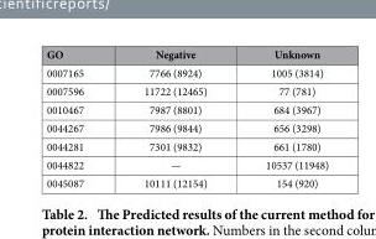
<table><thead><tr><td>GO</td><td>Negative</td><td>Unknown</td></tr></thead><tbody><tr><td>0007165</td><td>7766 (8924)</td><td>1005 (3814)</td></tr><tr><td>0007596</td><td>11722 (12465)</td><td>77 (781)</td></tr><tr><td>0010467</td><td>7987 (8801)</td><td>684 (3967)</td></tr><tr><td>0044267</td><td>7986 (9844)</td><td>656 (3298)</td></tr><tr><td>0044281</td><td>7301 (9832)</td><td>661 (1780)</td></tr><tr><td>0044822</td><td>—</td><td>10537 (11948)</td></tr><tr><td>0045087</td><td>10111 (12154)</td><td>154 (920)</td></tr></tbody></table>